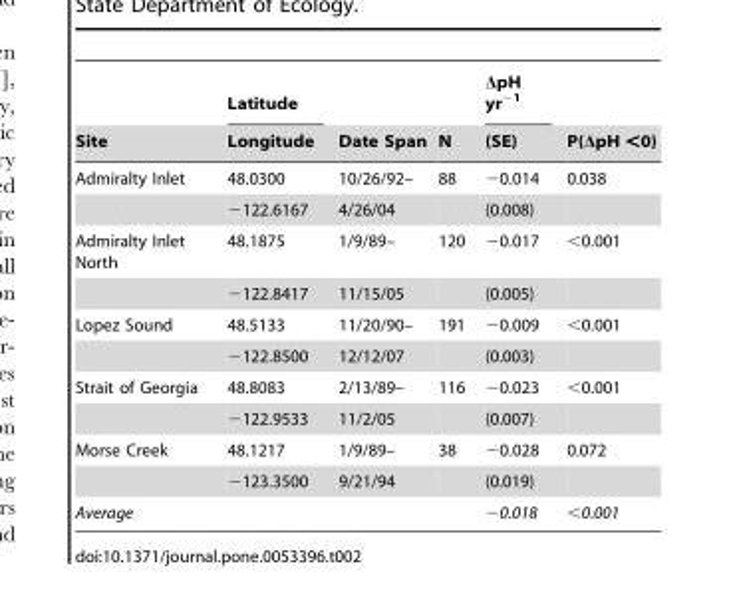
<table><thead><tr><td rowspan="2">Site</td><td rowspan="2">Latitude Longitude</td><td rowspan="2">Date Span</td><td rowspan="2">N</td><td rowspan="2">ΔpH yr<sup>−1</sup> (SE)</td><td rowspan="2">P(ΔpH &lt;0)</td></tr><tr></tr></thead><tbody><tr><td rowspan="2">Admiralty Inlet</td><td>48.0300</td><td>10/26/92–</td><td>88</td><td>−0.014</td><td>0.038</td></tr><tr><td>−122.6167</td><td>4/26/04</td><td></td><td>(0.008)</td><td></td></tr><tr><td rowspan="2">Admiralty Inlet North</td><td>48.1875</td><td>1/9/89–</td><td>120</td><td>−0.017</td><td>&lt;0.001</td></tr><tr><td>−122.8417</td><td>11/15/05</td><td></td><td>(0.005)</td><td></td></tr><tr><td rowspan="2">Lopez Sound</td><td>48.5133</td><td>11/20/90–</td><td>191</td><td>−0.009</td><td>&lt;0.001</td></tr><tr><td>−122.8500</td><td>12/12/07</td><td></td><td>(0.003)</td><td></td></tr><tr><td rowspan="2">Strait of Georgia</td><td>48.8083</td><td>2/13/89–</td><td>116</td><td>−0.023</td><td>&lt;0.001</td></tr><tr><td>−122.9533</td><td>11/2/05</td><td></td><td>(0.007)</td><td></td></tr><tr><td rowspan="2">Morse Creek</td><td>48.1217</td><td>1/9/89–</td><td>38</td><td>−0.028</td><td>0.072</td></tr><tr><td>−123.3500</td><td>9/21/94</td><td></td><td>(0.019)</td><td></td></tr><tr><td>Average</td><td></td><td></td><td></td><td>−0.018</td><td>&lt;0.001</td></tr></tbody></table>